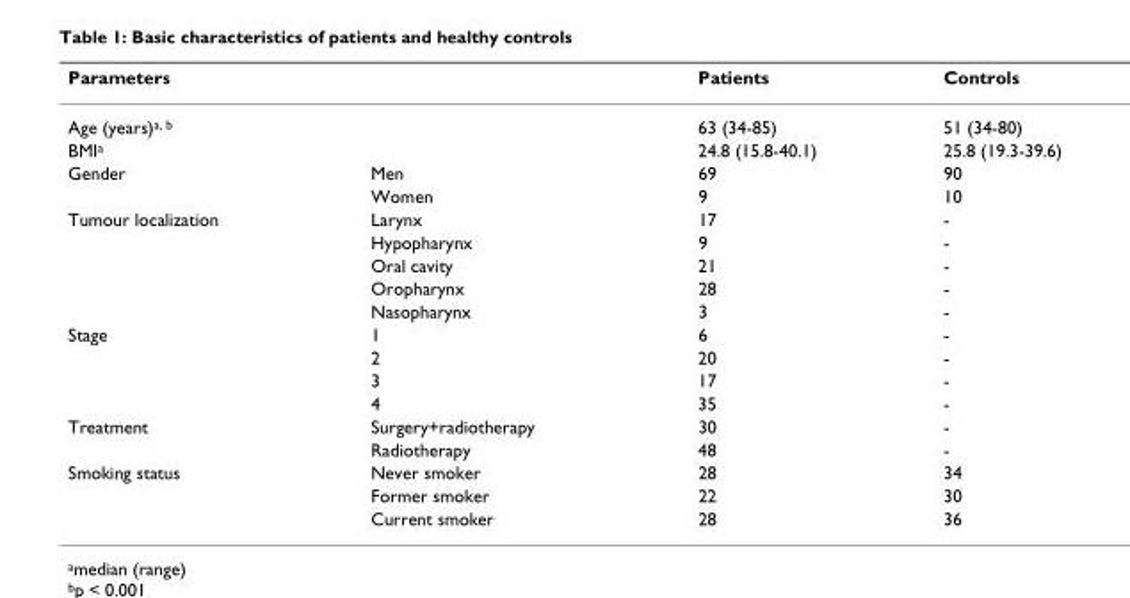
<table><thead><tr><td>Parameters</td><td></td><td>Patients</td><td>Controls</td></tr></thead><tbody><tr><td>Age (years)<sup>a, b</sup></td><td></td><td>63 (34-85)</td><td>51 (34-80)</td></tr><tr><td>BMI<sup>a</sup></td><td></td><td>24.8 (15.8-40.1)</td><td>25.8 (19.3-39.6)</td></tr><tr><td rowspan="2">Gender</td><td>Men</td><td>69</td><td>90</td></tr><tr><td>Women</td><td>9</td><td>10</td></tr><tr><td rowspan="5">Tumour localization</td><td>Larynx</td><td>17</td><td>-</td></tr><tr><td>Hypopharynx</td><td>9</td><td>-</td></tr><tr><td>Oral cavity</td><td>21</td><td>-</td></tr><tr><td>Oropharynx</td><td>28</td><td>-</td></tr><tr><td>Nasopharynx</td><td>3</td><td>-</td></tr><tr><td rowspan="4">Stage</td><td>1</td><td>6</td><td>-</td></tr><tr><td>2</td><td>20</td><td>-</td></tr><tr><td>3</td><td>17</td><td>-</td></tr><tr><td>4</td><td>35</td><td>-</td></tr><tr><td rowspan="2">Treatment</td><td>Surgery+radiotherapy</td><td>30</td><td>-</td></tr><tr><td>Radiotherapy</td><td>48</td><td>-</td></tr><tr><td rowspan="3">Smoking status</td><td>Never smoker</td><td>28</td><td>34</td></tr><tr><td>Former smoker</td><td>22</td><td>30</td></tr><tr><td>Current smoker</td><td>28</td><td>36</td></tr></tbody></table>